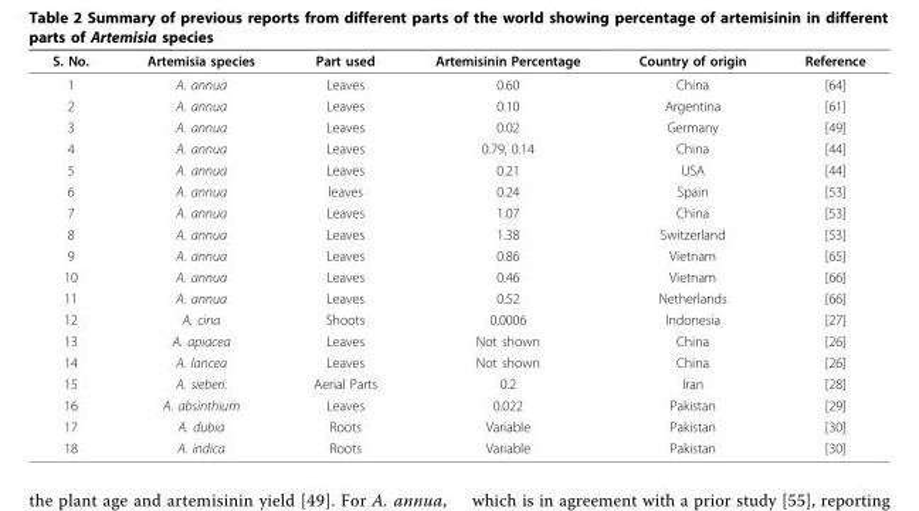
<table><thead><tr><td>S. No.</td><td>Artemisia species</td><td>Part used</td><td>Artemisinin Percentage</td><td>Country of origin</td><td>Reference</td></tr></thead><tbody><tr><td>1</td><td>A. annua</td><td>Leaves</td><td>0.60</td><td>China</td><td>[64]</td></tr><tr><td>2</td><td>A. annua</td><td>Leaves</td><td>0.10</td><td>Argentina</td><td>[61]</td></tr><tr><td>3</td><td>A. annua</td><td>Leaves</td><td>0.02</td><td>Germany</td><td>[49]</td></tr><tr><td>4</td><td>A. annua</td><td>Leaves</td><td>0.79, 0.14</td><td>China</td><td>[44]</td></tr><tr><td>5</td><td>A. annua</td><td>Leaves</td><td>0.21</td><td>USA</td><td>[44]</td></tr><tr><td>6</td><td>A. annua</td><td>leaves</td><td>0.24</td><td>Spain</td><td>[53]</td></tr><tr><td>7</td><td>A. annua</td><td>Leaves</td><td>1.07</td><td>China</td><td>[53]</td></tr><tr><td>8</td><td>A. annua</td><td>Leaves</td><td>1.38</td><td>Switzerland</td><td>[53]</td></tr><tr><td>9</td><td>A. annua</td><td>Leaves</td><td>0.86</td><td>Vietnam</td><td>[65]</td></tr><tr><td>10</td><td>A. annua</td><td>Leaves</td><td>0.46</td><td>Vietnam</td><td>[66]</td></tr><tr><td>11</td><td>A. annua</td><td>Leaves</td><td>0.52</td><td>Netherlands</td><td>[66]</td></tr><tr><td>12</td><td>A. cina</td><td>Shoots</td><td>0.0006</td><td>Indonesia</td><td>[27]</td></tr><tr><td>13</td><td>A. apiacea</td><td>Leaves</td><td>Not shown</td><td>China</td><td>[26]</td></tr><tr><td>14</td><td>A. lancea</td><td>Leaves</td><td>Not shown</td><td>China</td><td>[26]</td></tr><tr><td>15</td><td>A. sieberi.</td><td>Aerial Parts</td><td>0.2</td><td>Iran</td><td>[28]</td></tr><tr><td>16</td><td>A. absinthium</td><td>Leaves</td><td>0.022</td><td>Pakistan</td><td>[29]</td></tr><tr><td>17</td><td>A. dubia</td><td>Roots</td><td>Variable</td><td>Pakistan</td><td>[30]</td></tr><tr><td>18</td><td>A. indica</td><td>Roots</td><td>Variable</td><td>Pakistan</td><td>[30]</td></tr></tbody></table>